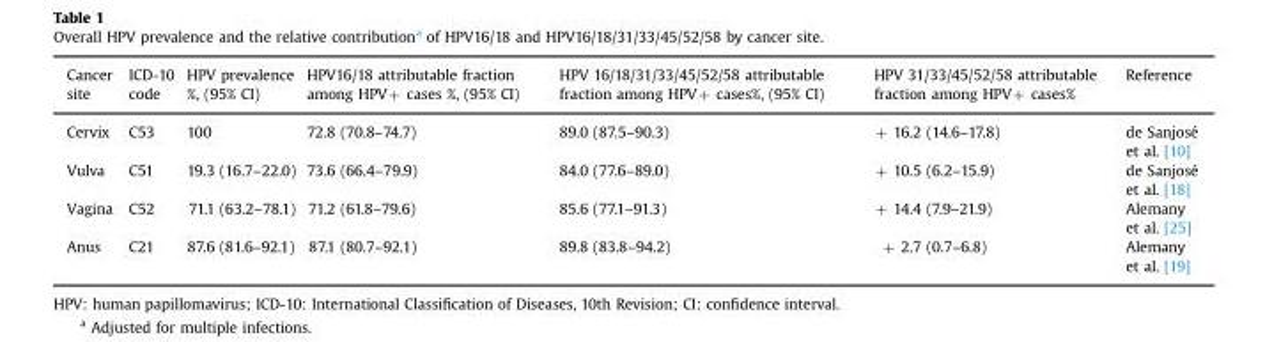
<table><thead><tr><td>Cancer site</td><td>ICD-10 code</td><td>HPV prevalence %, (95% CI)</td><td>HPV16/18 attributable fraction among HPV+ cases %, (95% CI)</td><td>HPV 16/18/31/33/45/52/58 attributable fraction among HPV+ cases%, (95% CI)</td><td>HPV 31/33/45/52/58 attributable fraction among HPV+ cases%</td><td>Reference</td></tr></thead><tbody><tr><td>Cervix</td><td>C53</td><td>100</td><td>72.8 (70.8–74.7)</td><td>89.0 (87.5–90.3)</td><td>+ 16.2 (14.6–17.8)</td><td>de Sanjosé et al. [10]</td></tr><tr><td>Vulva</td><td>C51</td><td>19.3 (16.7–22.0)</td><td>73.6 (66.4–79.9)</td><td>84.0 (77.6–89.0)</td><td>+ 10.5 (6.2–15.9)</td><td>de Sanjosé et al. [18]</td></tr><tr><td>Vagina</td><td>C52</td><td>71.1 (63.2–78.1)</td><td>71.2 (61.8–79.6)</td><td>85.6 (77.1–91.3)</td><td>+ 14.4 (7.9–21.9)</td><td>Alemany et al. [25]</td></tr><tr><td>Anus</td><td>C21</td><td>87.6 (81.6–92.1)</td><td>87.1 (80.7–92.1)</td><td>89.8 (83.8–94.2)</td><td>+ 2.7 (0.7–6.8)</td><td>Alemany et al. [19]</td></tr></tbody></table>